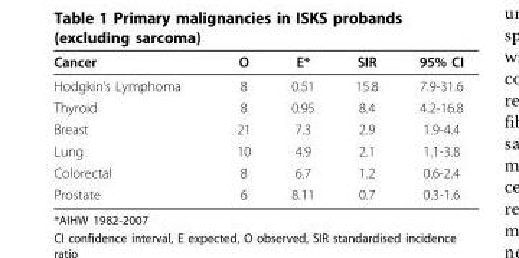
<table><thead><tr><td>Cancer</td><td>O</td><td>E*</td><td>SIR</td><td>95% CI</td></tr></thead><tbody><tr><td>Hodgkin’s Lymphoma</td><td>8</td><td>0.51</td><td>15.8</td><td>7.9-31.6</td></tr><tr><td>Thyroid</td><td>8</td><td>0.95</td><td>8.4</td><td>4.2-16.8</td></tr><tr><td>Breast</td><td>21</td><td>7.3</td><td>2.9</td><td>1.9-4.4</td></tr><tr><td>Lung</td><td>10</td><td>4.9</td><td>2.1</td><td>1.1-3.8</td></tr><tr><td>Colorectal</td><td>8</td><td>6.7</td><td>1.2</td><td>0.6-2.4</td></tr><tr><td>Prostate</td><td>6</td><td>8.11</td><td>0.7</td><td>0.3-1.6</td></tr></tbody></table>